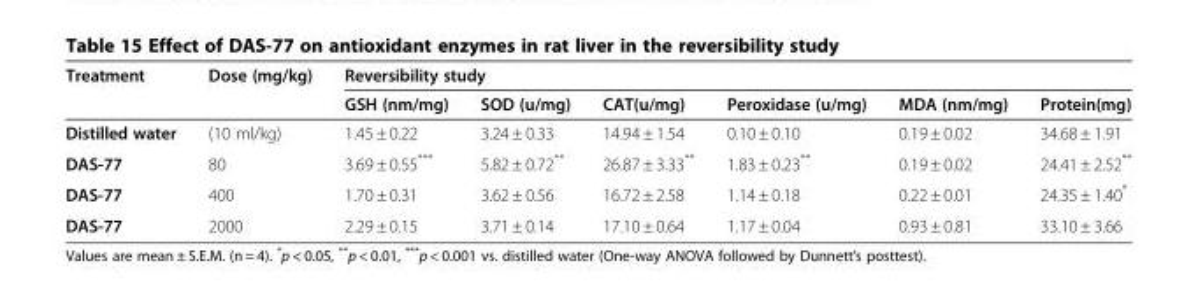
<table><thead><tr><td rowspan="2">Treatment</td><td rowspan="2">Dose (mg/kg)</td><td colspan="6">Reversibility study</td></tr><tr><td>GSH (nm/mg)</td><td>SOD (u/mg)</td><td>CAT(u/mg)</td><td>Peroxidase (u/mg)</td><td>MDA (nm/mg)</td><td>Protein(mg)</td></tr></thead><tbody><tr><td>Distilled water</td><td>(10 ml/kg)</td><td>1.45 ± 0.22</td><td>3.24 ± 0.33</td><td>14.94 ± 1.54</td><td>0.10 ± 0.10</td><td>0.19 ± 0.02</td><td>34.68 ± 1.91</td></tr><tr><td>DAS-77</td><td>80</td><td>3.69 ± 0.55***</td><td>5.82 ± 0.72**</td><td>26.87 ± 3.33**</td><td>1.83 ± 0.23**</td><td>0.19 ± 0.02</td><td>24.41 ± 2.52**</td></tr><tr><td>DAS-77</td><td>400</td><td>1.70 ± 0.31</td><td>3.62 ± 0.56</td><td>16.72 ± 2.58</td><td>1.14 ± 0.18</td><td>0.22 ± 0.01</td><td>24.35 ± 1.40*</td></tr><tr><td>DAS-77</td><td>2000</td><td>2.29 ± 0.15</td><td>3.71 ± 0.14</td><td>17.10 ± 0.64</td><td>1.17 ± 0.04</td><td>0.93 ± 0.81</td><td>33.10 ± 3.66</td></tr></tbody></table>